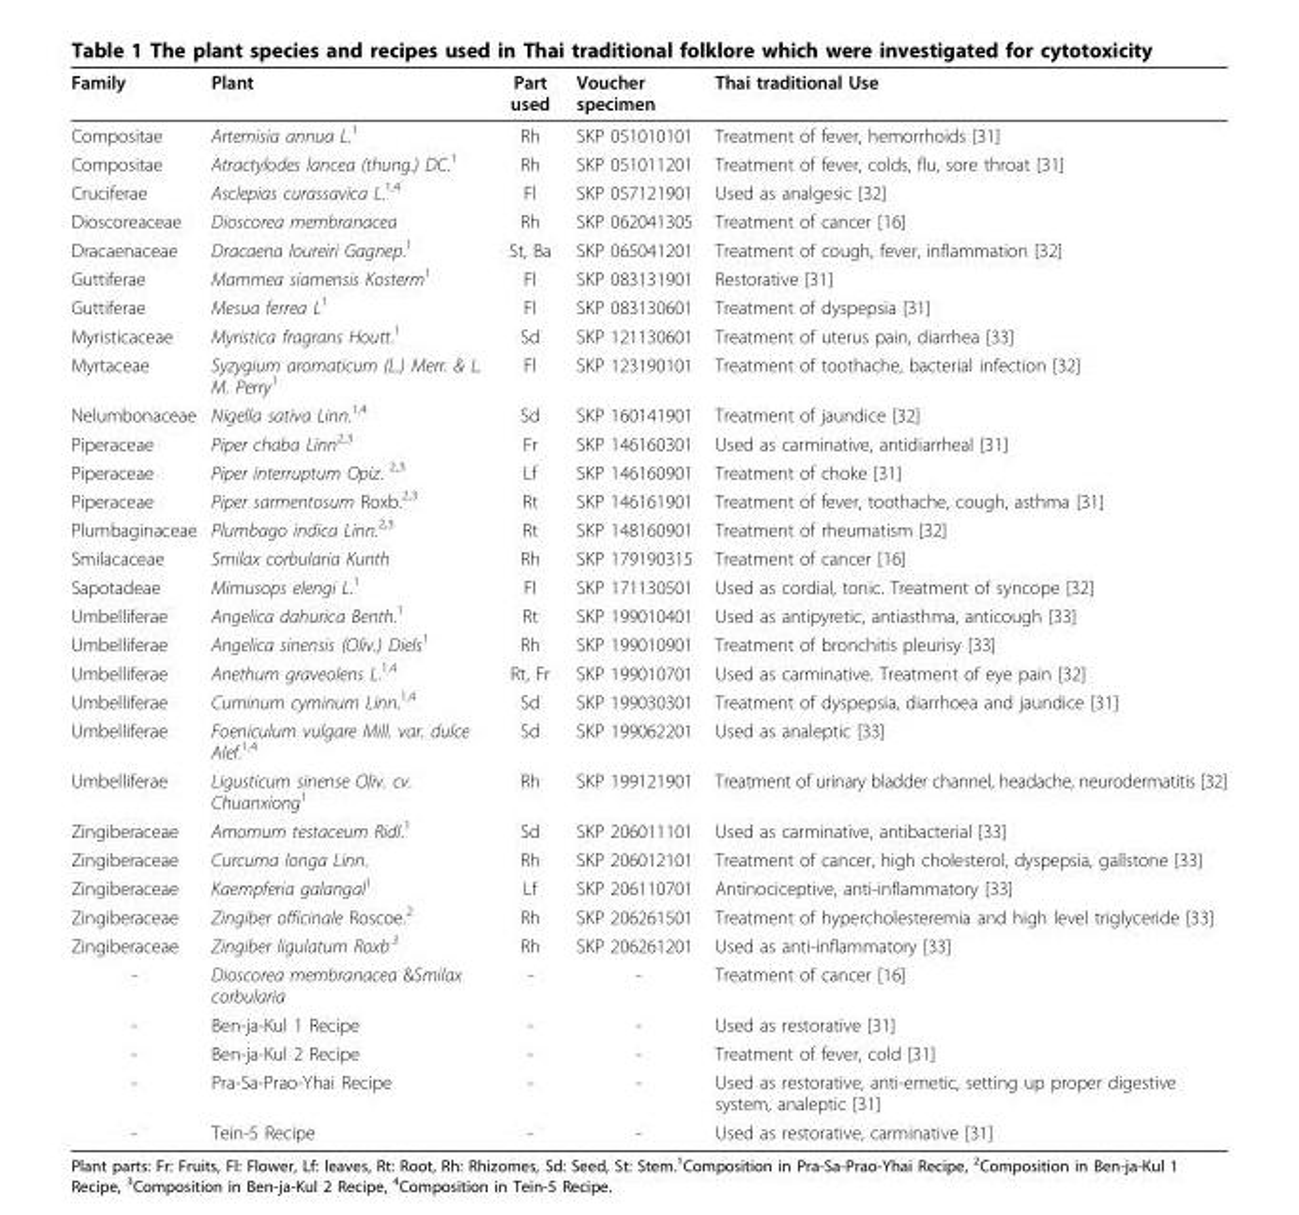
<table><thead><tr><td>Family</td><td>Plant</td><td>Part used</td><td>Voucher specimen</td><td>Thai traditional Use</td></tr></thead><tbody><tr><td>Compositae</td><td>Artemisia annua L.<sup>1</sup></td><td>Rh</td><td>SKP 051010101</td><td>Treatment of fever, hemorrhoids [31]</td></tr><tr><td>Compositae</td><td>Atractylodes lancea (thung.) DC.<sup>1</sup></td><td>Rh</td><td>SKP 051011201</td><td>Treatment of fever, colds, flu, sore throat [31]</td></tr><tr><td>Cruciferae</td><td>Asclepias curassavica L.<sup>1,4</sup></td><td>Fl</td><td>SKP 057121901</td><td>Used as analgesic [32]</td></tr><tr><td>Dioscoreaceae</td><td>Dioscorea membranacea</td><td>Rh</td><td>SKP 062041305</td><td>Treatment of cancer [16]</td></tr><tr><td>Dracaenaceae</td><td>Dracaena loureiri Gagnep.<sup>1</sup></td><td>St, Ba</td><td>SKP 065041201</td><td>Treatment of cough, fever, inflammation [32]</td></tr><tr><td>Guttiferae</td><td>Mammea siamensis Kosterm<sup>1</sup></td><td>Fl</td><td>SKP 083131901</td><td>Restorative [31]</td></tr><tr><td>Guttiferae</td><td>Mesua ferrea L<sup>1</sup></td><td>Fl</td><td>SKP 083130601</td><td>Treatment of dyspepsia [31]</td></tr><tr><td>Myristicaceae</td><td>Myristica fragrans Houtt.<sup>1</sup></td><td>Sd</td><td>SKP 121130601</td><td>Treatment of uterus pain, diarrhea [33]</td></tr><tr><td>Myrtaceae</td><td>Syzygium aromaticum (L.) Merr. &amp; L. M. Perry<sup>1</sup></td><td>Fl</td><td>SKP 123190101</td><td>Treatment of toothache, bacterial infection [32]</td></tr><tr><td>Nelumbonaceae</td><td>Nigella sativa Linn.<sup>1,4</sup></td><td>Sd</td><td>SKP 160141901</td><td>Treatment of jaundice [32]</td></tr><tr><td>Piperaceae</td><td>Piper chaba Linn<sup>2,3</sup></td><td>Fr</td><td>SKP 146160301</td><td>Used as carminative, antidiarrheal [31]</td></tr><tr><td>Piperaceae</td><td>Piper interruptum Opiz. <sup>2,3</sup></td><td>Lf</td><td>SKP 146160901</td><td>Treatment of choke [31]</td></tr><tr><td>Piperaceae</td><td>Piper sarmentosum Roxb.<sup>2,3</sup></td><td>Rt</td><td>SKP 146161901</td><td>Treatment of fever, toothache, cough, asthma [31]</td></tr><tr><td>Plumbaginaceae</td><td>Plumbago indica Linn.<sup>2,3</sup></td><td>Rt</td><td>SKP 148160901</td><td>Treatment of rheumatism [32]</td></tr><tr><td>Smilacaceae</td><td>Smilax corbularia Kunth</td><td>Rh</td><td>SKP 179190315</td><td>Treatment of cancer [16]</td></tr><tr><td>Sapotadeae</td><td>Mimusops elengi L.<sup>1</sup></td><td>Fl</td><td>SKP 171130501</td><td>Used as cordial, tonic. Treatment of syncope [32]</td></tr><tr><td>Umbelliferae</td><td>Angelica dahurica Benth.<sup>1</sup></td><td>Rt</td><td>SKP 199010401</td><td>Used as antipyretic, antiasthma, anticough [33]</td></tr><tr><td>Umbelliferae</td><td>Angelica sinensis (Oliv.) Diels<sup>1</sup></td><td>Rh</td><td>SKP 199010901</td><td>Treatment of bronchitis pleurisy [33]</td></tr><tr><td>Umbelliferae</td><td>Anethum graveolens L.<sup>1,4</sup></td><td>Rt, Fr</td><td>SKP 199010701</td><td>Used as carminative. Treatment of eye pain [32]</td></tr><tr><td>Umbelliferae</td><td>Cuminum cyminum Linn.<sup>1,4</sup></td><td>Sd</td><td>SKP 199030301</td><td>Treatment of dyspepsia, diarrhoea and jaundice [31]</td></tr><tr><td>Umbelliferae</td><td>Foeniculum vulgare Mill. var. dulce Alef.<sup>1,4</sup></td><td>Sd</td><td>SKP 199062201</td><td>Used as analeptic [33]</td></tr><tr><td>Umbelliferae</td><td>Ligusticum sinense Oliv. cv. Chuanxiong<sup>1</sup></td><td>Rh</td><td>SKP 199121901</td><td>Treatment of urinary bladder channel, headache, neurodermatitis [32]</td></tr><tr><td>Zingiberaceae</td><td>Amomum testaceum Ridl.<sup>1</sup></td><td>Sd</td><td>SKP 206011101</td><td>Used as carminative, antibacterial [33]</td></tr><tr><td>Zingiberaceae</td><td>Curcuma longa Linn.</td><td>Rh</td><td>SKP 206012101</td><td>Treatment of cancer, high cholesterol, dyspepsia, gallstone [33]</td></tr><tr><td>Zingiberaceae</td><td>Kaempferia galangal<sup>1</sup></td><td>Lf</td><td>SKP 206110701</td><td>Antinociceptive, anti-inflammatory [33]</td></tr><tr><td>Zingiberaceae</td><td>Zingiber officinale Roscoe.<sup>2</sup></td><td>Rh</td><td>SKP 206261501</td><td>Treatment of hypercholesteremia and high level triglyceride [33]</td></tr><tr><td>Zingiberaceae</td><td>Zingiber ligulatum Roxb<sup>.3</sup></td><td>Rh</td><td>SKP 206261201</td><td>Used as anti-inflammatory [33]</td></tr><tr><td>-</td><td>Dioscorea membranacea &amp;Smilax corbularia</td><td>-</td><td>-</td><td>Treatment of cancer [16]</td></tr><tr><td>-</td><td>Ben-ja-Kul 1 Recipe</td><td>-</td><td>-</td><td>Used as restorative [31]</td></tr><tr><td>-</td><td>Ben-ja-Kul 2 Recipe</td><td>-</td><td>-</td><td>Treatment of fever, cold [31]</td></tr><tr><td>-</td><td>Pra-Sa-Prao-Yhai Recipe</td><td>-</td><td>-</td><td>Used as restorative, anti-emetic, setting up proper digestive system, analeptic [31]</td></tr><tr><td>-</td><td>Tein-5 Recipe</td><td>-</td><td>-</td><td>Used as restorative, carminative [31]</td></tr></tbody></table>